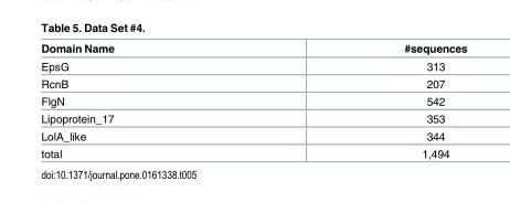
<table><thead><tr><td>Domain Name</td><td>#sequences</td></tr></thead><tbody><tr><td>EpsG</td><td>313</td></tr><tr><td>RcnB</td><td>207</td></tr><tr><td>FlgN</td><td>542</td></tr><tr><td>Lipoprotein_17</td><td>353</td></tr><tr><td>LolA_like</td><td>344</td></tr><tr><td>total</td><td>1,494</td></tr></tbody></table>